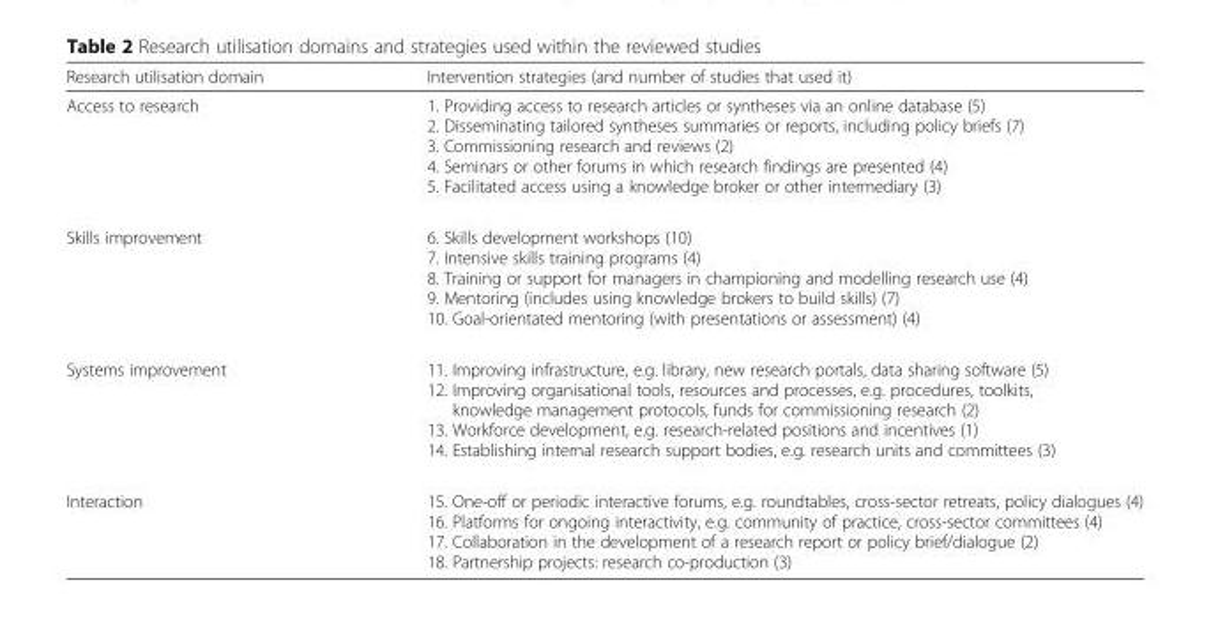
<table><thead><tr><td>Research utilisation domain</td><td>Intervention strategies (and number of studies that used it)</td></tr></thead><tbody><tr><td>Access to research</td><td>1. Providing access to research articles or syntheses via an online database (5) 2. Disseminating tailored syntheses summaries or reports, including policy briefs (7) 3. Commissioning research and reviews (2) 4. Seminars or other forums in which research findings are presented (4) 5. Facilitated access using a knowledge broker or other intermediary (3)</td></tr><tr><td>Skills improvement</td><td>6. Skills development workshops (10) 7. Intensive skills training programs (4) 8. Training or support for managers in championing and modelling research use (4) 9. Mentoring (includes using knowledge brokers to build skills) (7) 10. Goal-orientated mentoring (with presentations or assessment) (4)</td></tr><tr><td>Systems improvement</td><td>11. Improving infrastructure, e.g. library, new research portals, data sharing software (5) 12. Improving organisational tools, resources and processes, e.g. procedures, toolkits, knowledge management protocols, funds for commissioning research (2) 13. Workforce development, e.g. research-related positions and incentives (1) 14. Establishing internal research support bodies, e.g. research units and committees (3)</td></tr><tr><td>Interaction</td><td>15. One-off or periodic interactive forums, e.g. roundtables, cross-sector retreats, policy dialogues (4) 16. Platforms for ongoing interactivity, e.g. community of practice, cross-sector committees (4) 17. Collaboration in the development of a research report or policy brief/dialogue (2) 18. Partnership projects: research co-production (3)</td></tr></tbody></table>